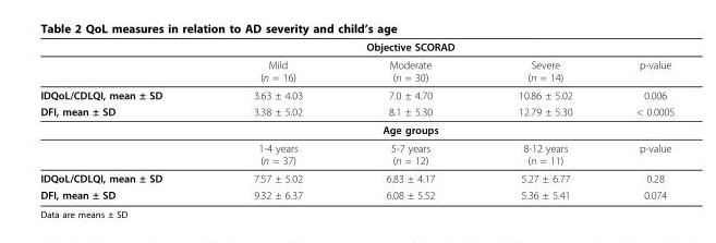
<table><thead><tr><td></td><td></td><td>Objective SCORAD</td><td></td><td></td></tr></thead><tbody><tr><td></td><td>Mild (n = 16)</td><td>Moderate (n = 30)</td><td>Severe (n = 14)</td><td>p-value</td></tr><tr><td>IDQoL/CDLQI, mean ± SD</td><td>3.63 ± 4.03</td><td>7.0 ± 4.70</td><td>10.86 ± 5.02</td><td>0.006</td></tr><tr><td rowspan="3">DFI, mean ± SD</td><td>3.38 ± 5.02</td><td>8.1 ± 5.30</td><td>12.79 ± 5.30</td><td>&lt; 0.0005</td></tr><tr><td></td><td>Age groups</td><td></td><td></td></tr><tr><td>1-4 years (n = 37)</td><td>5-7 years (n = 12)</td><td>8-12 years (n = 11)</td><td>p-value</td></tr><tr><td>IDQoL/CDLQI, mean ± SD</td><td>7.57 ± 5.02</td><td>6.83 ± 4.17</td><td>5.27 ± 6.77</td><td>0.28</td></tr><tr><td>DFI, mean ± SD</td><td>9.32 ± 6.37</td><td>6.08 ± 5.52</td><td>5.36 ± 5.41</td><td>0.074</td></tr></tbody></table>